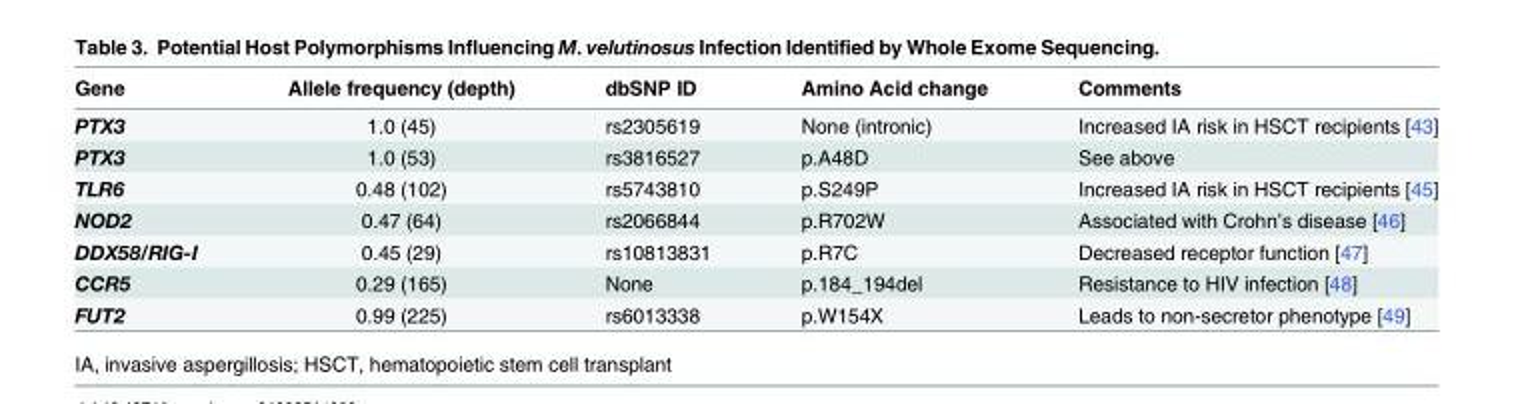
<table><thead><tr><td>Gene</td><td>Allele frequency (depth)</td><td>dbSNP ID</td><td>Amino Acid change</td><td>Comments</td></tr></thead><tbody><tr><td>PTX3</td><td>1.0 (45)</td><td>rs2305619</td><td>None (intronic)</td><td>Increased IA risk in HSCT recipients [43]</td></tr><tr><td>PTX3</td><td>1.0 (53)</td><td>rs3816527</td><td>p.A48D</td><td>See above</td></tr><tr><td>TLR6</td><td>0.48 (102)</td><td>rs5743810</td><td>p.S249P</td><td>Increased IA risk in HSCT recipients [45]</td></tr><tr><td>NOD2</td><td>0.47 (64)</td><td>rs2066844</td><td>p.R702W</td><td>Associated with Crohn’s disease [46]</td></tr><tr><td>DDX58/RIG-I</td><td>0.45 (29)</td><td>rs10813831</td><td>p.R7C</td><td>Decreased receptor function [47]</td></tr><tr><td>CCR5</td><td>0.29 (165)</td><td>None</td><td>p.184_194del</td><td>Resistance to HIV infection [48]</td></tr><tr><td>FUT2</td><td>0.99 (225)</td><td>rs6013338</td><td>p.W154X</td><td>Leads to non-secretor phenotype [49]</td></tr></tbody></table>